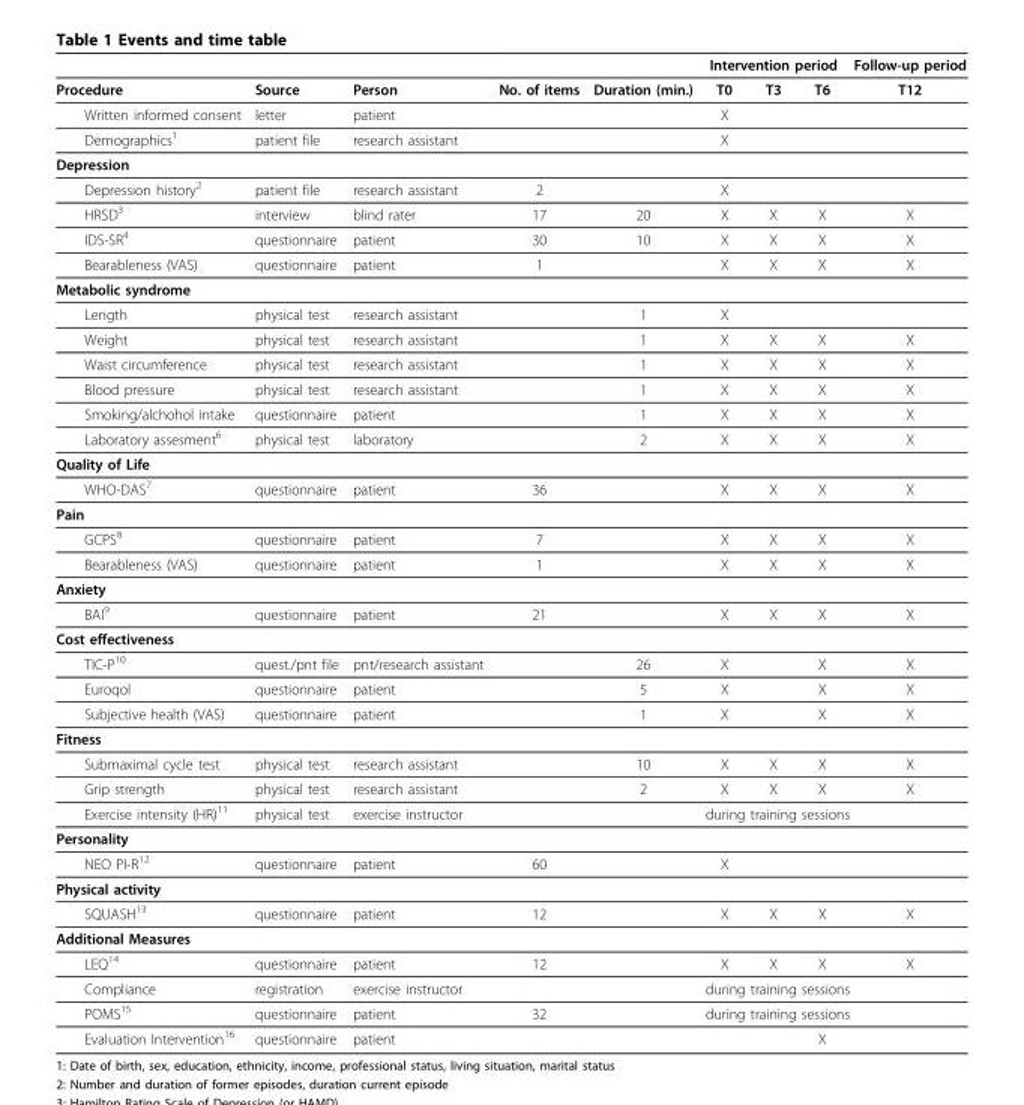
<table><thead><tr><td rowspan="2">Procedure</td><td rowspan="2">Source</td><td rowspan="2">Person</td><td rowspan="2">No. of items</td><td rowspan="2">Duration (min.)</td><td colspan="3">Intervention period</td><td rowspan="2">Follow-up period T12</td></tr><tr><td>T0</td><td>T3</td><td>T6</td></tr></thead><tbody><tr><td>Written informed consent</td><td>letter</td><td>patient</td><td></td><td></td><td>X</td><td></td><td></td><td></td></tr><tr><td>Demographics<sup>1</sup></td><td>patient file</td><td>research assistant</td><td></td><td></td><td>X</td><td></td><td></td><td></td></tr><tr><td colspan="9">Depression</td></tr><tr><td>Depression history<sup>2</sup></td><td>patient file</td><td>research assistant</td><td>2</td><td></td><td>X</td><td></td><td></td><td></td></tr><tr><td>HRSD<sup>3</sup></td><td>interview</td><td>blind rater</td><td>17</td><td>20</td><td>X</td><td>X</td><td>X</td><td>X</td></tr><tr><td>IDS-SR<sup>4</sup></td><td>questionnaire</td><td>patient</td><td>30</td><td>10</td><td>X</td><td>X</td><td>X</td><td>X</td></tr><tr><td>Bearableness (VAS)</td><td>questionnaire</td><td>patient</td><td>1</td><td></td><td>X</td><td>X</td><td>X</td><td>X</td></tr><tr><td colspan="9">Metabolic syndrome</td></tr><tr><td>Length</td><td>physical test</td><td>research assistant</td><td></td><td>1</td><td>X</td><td></td><td></td><td></td></tr><tr><td>Weight</td><td>physical test</td><td>research assistant</td><td></td><td>1</td><td>X</td><td>X</td><td>X</td><td>X</td></tr><tr><td>Waist circumference</td><td>physical test</td><td>research assistant</td><td></td><td>1</td><td>X</td><td>X</td><td>X</td><td>X</td></tr><tr><td>Blood pressure</td><td>physical test</td><td>research assistant</td><td></td><td>1</td><td>X</td><td>X</td><td>X</td><td>X</td></tr><tr><td>Smoking/alchohol intake</td><td>questionnaire</td><td>patient</td><td></td><td>1</td><td>X</td><td>X</td><td>X</td><td>X</td></tr><tr><td>Laboratory assesment<sup>6</sup></td><td>physical test</td><td>laboratory</td><td></td><td>2</td><td>X</td><td>X</td><td>X</td><td>X</td></tr><tr><td colspan="9">Quality of Life</td></tr><tr><td>WHO-DAS<sup>7</sup></td><td>questionnaire</td><td>patient</td><td>36</td><td></td><td>X</td><td>X</td><td>X</td><td>X</td></tr><tr><td colspan="9">Pain</td></tr><tr><td>GCPS<sup>8</sup></td><td>questionnaire</td><td>patient</td><td>7</td><td></td><td>X</td><td>X</td><td>X</td><td>X</td></tr><tr><td>Bearableness (VAS)</td><td>questionnaire</td><td>patient</td><td>1</td><td></td><td>X</td><td>X</td><td>X</td><td>X</td></tr><tr><td colspan="9">Anxiety</td></tr><tr><td>BAI<sup>9</sup></td><td>questionnaire</td><td>patient</td><td>21</td><td></td><td>X</td><td>X</td><td>X</td><td>X</td></tr><tr><td colspan="9">Cost effectiveness</td></tr><tr><td>TIC-P<sup>10</sup></td><td>quest./pnt file</td><td>pnt/research assistant</td><td></td><td>26</td><td>X</td><td></td><td>X</td><td>X</td></tr><tr><td>Euroqol</td><td>questionnaire</td><td>patient</td><td></td><td>5</td><td>X</td><td></td><td>X</td><td>X</td></tr><tr><td>Subjective health (VAS)</td><td>questionnaire</td><td>patient</td><td></td><td>1</td><td>X</td><td></td><td>X</td><td>X</td></tr><tr><td colspan="9">Fitness</td></tr><tr><td>Submaximal cycle test</td><td>physical test</td><td>research assistant</td><td></td><td>10</td><td>X</td><td>X</td><td>X</td><td>X</td></tr><tr><td>Grip strength</td><td>physical test</td><td>research assistant</td><td></td><td>2</td><td>X</td><td>X</td><td>X</td><td>X</td></tr><tr><td>Exercise intensity (HR)<sup>11</sup></td><td>physical test</td><td>exercise instructor</td><td></td><td></td><td colspan="4">during training sessions</td></tr><tr><td colspan="9">Personality</td></tr><tr><td>NEO PI-R<sup>12</sup></td><td>questionnaire</td><td>patient</td><td>60</td><td></td><td>X</td><td></td><td></td><td></td></tr><tr><td colspan="9">Physical activity</td></tr><tr><td>SQUASH<sup>13</sup></td><td>questionnaire</td><td>patient</td><td>12</td><td></td><td>X</td><td>X</td><td>X</td><td>X</td></tr><tr><td colspan="9">Additional Measures</td></tr><tr><td>LEQ<sup>14</sup></td><td>questionnaire</td><td>patient</td><td>12</td><td></td><td>X</td><td>X</td><td>X</td><td>X</td></tr><tr><td>Compliance</td><td>registration</td><td>exercise instructor</td><td></td><td></td><td colspan="4">during training sessions</td></tr><tr><td>POMS<sup>15</sup></td><td>questionnaire</td><td>patient</td><td>32</td><td></td><td colspan="4">during training sessions</td></tr><tr><td>Evaluation Intervention<sup>16</sup></td><td>questionnaire</td><td>patient</td><td></td><td></td><td></td><td></td><td>X</td><td></td></tr></tbody></table>